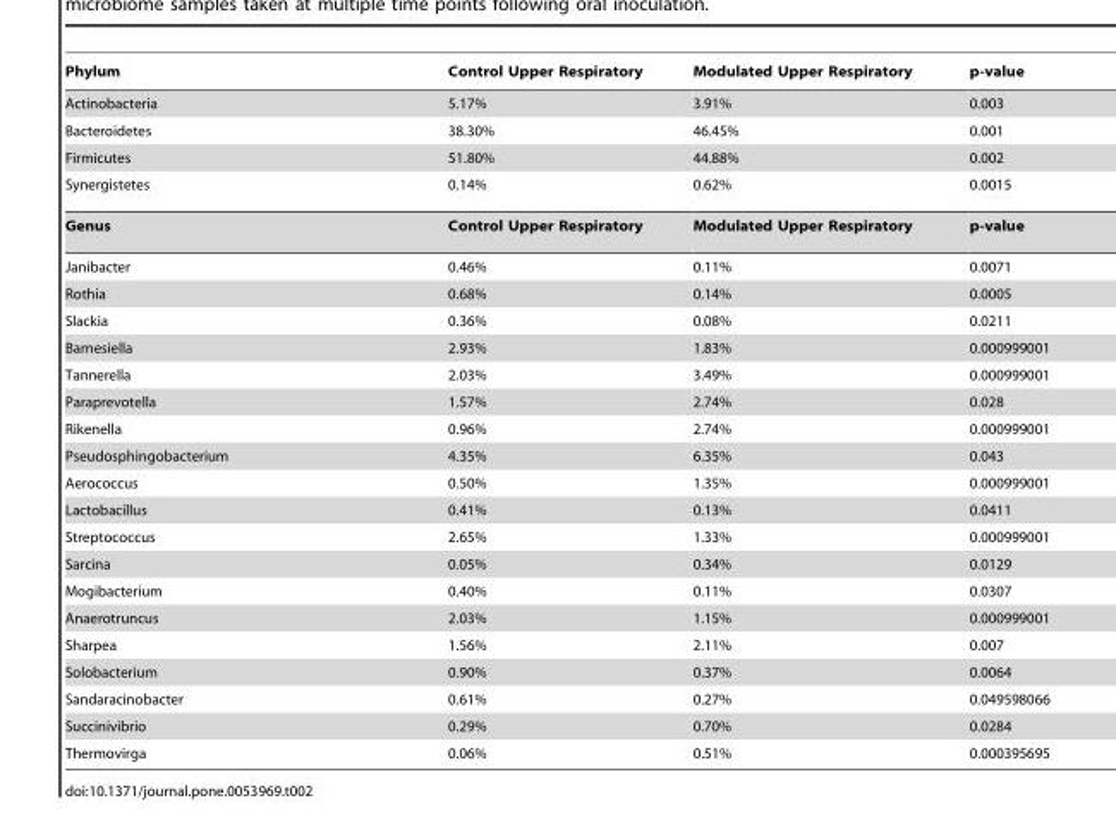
<table><thead><tr><td>Phylum</td><td>Control Upper Respiratory</td><td>Modulated Upper Respiratory</td><td>p-value</td></tr></thead><tbody><tr><td>Actinobacteria</td><td>5.17%</td><td>3.91%</td><td>0.003</td></tr><tr><td>Bacteroidetes</td><td>38.30%</td><td>46.45%</td><td>0.001</td></tr><tr><td>Firmicutes</td><td>51.80%</td><td>44.88%</td><td>0.002</td></tr><tr><td>Synergistetes</td><td>0.14%</td><td>0.62%</td><td>0.0015</td></tr><tr><td>Genus</td><td>Control Upper Respiratory</td><td>Modulated Upper Respiratory</td><td>p-value</td></tr><tr><td>Janibacter</td><td>0.46%</td><td>0.11%</td><td>0.0071</td></tr><tr><td>Rothia</td><td>0.68%</td><td>0.14%</td><td>0.0005</td></tr><tr><td>Slackia</td><td>0.36%</td><td>0.08%</td><td>0.0211</td></tr><tr><td>Barnesiella</td><td>2.93%</td><td>1.83%</td><td>0.000999001</td></tr><tr><td>Tannerella</td><td>2.03%</td><td>3.49%</td><td>0.000999001</td></tr><tr><td>Paraprevotella</td><td>1.57%</td><td>2.74%</td><td>0.028</td></tr><tr><td>Rikenella</td><td>0.96%</td><td>2.74%</td><td>0.000999001</td></tr><tr><td>Pseudosphingobacterium</td><td>4.35%</td><td>6.35%</td><td>0.043</td></tr><tr><td>Aerococcus</td><td>0.50%</td><td>1.35%</td><td>0.000999001</td></tr><tr><td>Lactobacillus</td><td>0.41%</td><td>0.13%</td><td>0.0411</td></tr><tr><td>Streptococcus</td><td>2.65%</td><td>1.33%</td><td>0.000999001</td></tr><tr><td>Sarcina</td><td>0.05%</td><td>0.34%</td><td>0.0129</td></tr><tr><td>Mogibacterium</td><td>0.40%</td><td>0.11%</td><td>0.0307</td></tr><tr><td>Anaerotruncus</td><td>2.03%</td><td>1.15%</td><td>0.000999001</td></tr><tr><td>Sharpea</td><td>1.56%</td><td>2.11%</td><td>0.007</td></tr><tr><td>Solobacterium</td><td>0.90%</td><td>0.37%</td><td>0.0064</td></tr><tr><td>Sandaracinobacter</td><td>0.61%</td><td>0.27%</td><td>0.049598066</td></tr><tr><td>Succinivibrio</td><td>0.29%</td><td>0.70%</td><td>0.0284</td></tr><tr><td>Thermovirga</td><td>0.06%</td><td>0.51%</td><td>0.000395695</td></tr></tbody></table>